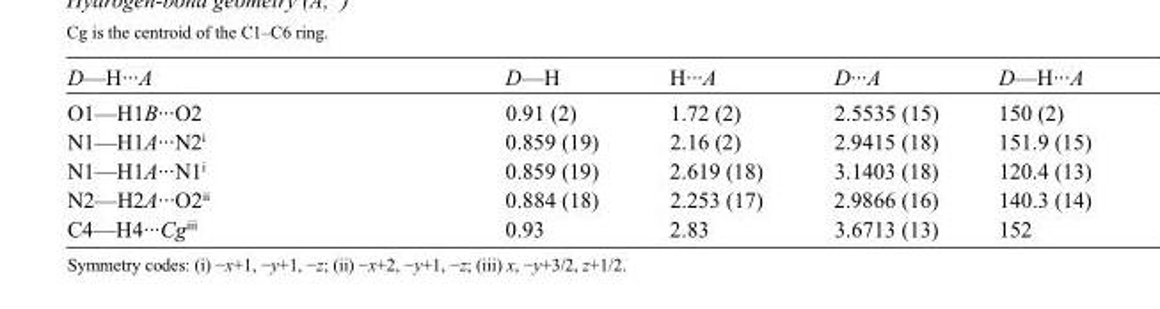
<table><tbody><tr><td>D—H···A</td><td>D—H</td><td>H···A</td><td>D···A</td><td>D—H···A</td></tr><tr><td>O1—H1B···O2</td><td>0.91 (2)</td><td>1.72 (2)</td><td>2.5535 (15)</td><td>150 (2)</td></tr><tr><td>N1—H1A···N2<sup>i</sup></td><td>0.859 (19)</td><td>2.16 (2)</td><td>2.9415 (18)</td><td>151.9 (15)</td></tr><tr><td>N1—H1A···N1<sup>i</sup></td><td>0.859 (19)</td><td>2.619 (18)</td><td>3.1403 (18)</td><td>120.4 (13)</td></tr><tr><td>N2—H2A···O2<sup>ii</sup></td><td>0.884 (18)</td><td>2.253 (17)</td><td>2.9866 (16)</td><td>140.3 (14)</td></tr><tr><td>C4—H4···Cg<sup>iii</sup></td><td>0.93</td><td>2.83</td><td>3.6713 (13)</td><td>152</td></tr></tbody></table>